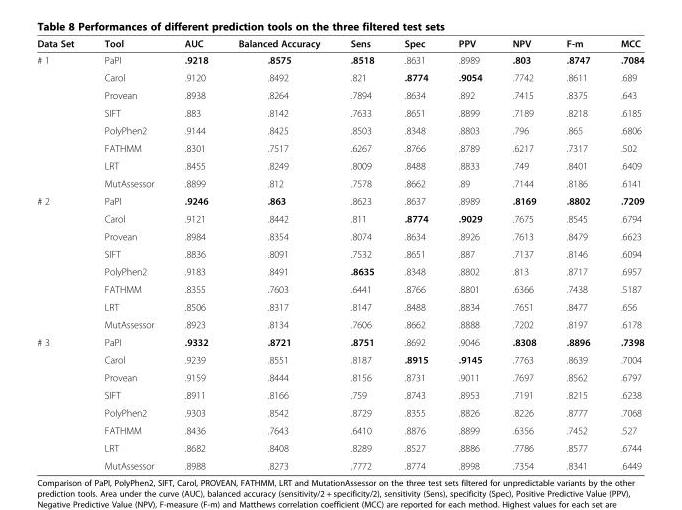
<table><thead><tr><td>Data Set</td><td>Tool</td><td>AUC</td><td>Balanced Accuracy</td><td>Sens</td><td>Spec</td><td>PPV</td><td>NPV</td><td>F-m</td><td>MCC</td></tr></thead><tbody><tr><td rowspan="8"># 1</td><td>PaPI</td><td>.9218</td><td>.8575</td><td>.8518</td><td>.8631</td><td>.8989</td><td>.803</td><td>.8747</td><td>.7084</td></tr><tr><td>Carol</td><td>.9120</td><td>.8492</td><td>.821</td><td>.8774</td><td>.9054</td><td>.7742</td><td>.8611</td><td>.689</td></tr><tr><td>Provean</td><td>.8938</td><td>.8264</td><td>.7894</td><td>.8634</td><td>.892</td><td>.7415</td><td>.8375</td><td>.643</td></tr><tr><td>SIFT</td><td>.883</td><td>.8142</td><td>.7633</td><td>.8651</td><td>.8899</td><td>.7189</td><td>.8218</td><td>.6185</td></tr><tr><td>PolyPhen2</td><td>.9144</td><td>.8425</td><td>.8503</td><td>.8348</td><td>.8803</td><td>.796</td><td>.865</td><td>.6806</td></tr><tr><td>FATHMM</td><td>.8301</td><td>.7517</td><td>.6267</td><td>.8766</td><td>.8789</td><td>.6217</td><td>.7317</td><td>.502</td></tr><tr><td>LRT</td><td>.8455</td><td>.8249</td><td>.8009</td><td>.8488</td><td>.8833</td><td>.749</td><td>.8401</td><td>.6409</td></tr><tr><td>MutAssessor</td><td>.8899</td><td>.812</td><td>.7578</td><td>.8662</td><td>.89</td><td>.7144</td><td>.8186</td><td>.6141</td></tr><tr><td rowspan="8"># 2</td><td>PaPI</td><td>.9246</td><td>.863</td><td>.8623</td><td>.8637</td><td>.8989</td><td>.8169</td><td>.8802</td><td>.7209</td></tr><tr><td>Carol</td><td>.9121</td><td>.8442</td><td>.811</td><td>.8774</td><td>.9029</td><td>.7675</td><td>.8545</td><td>.6794</td></tr><tr><td>Provean</td><td>.8984</td><td>.8354</td><td>.8074</td><td>.8634</td><td>.8926</td><td>.7613</td><td>.8479</td><td>.6623</td></tr><tr><td>SIFT</td><td>.8836</td><td>.8091</td><td>.7532</td><td>.8651</td><td>.887</td><td>.7137</td><td>.8146</td><td>.6094</td></tr><tr><td>PolyPhen2</td><td>.9183</td><td>.8491</td><td>.8635</td><td>.8348</td><td>.8802</td><td>.813</td><td>.8717</td><td>.6957</td></tr><tr><td>FATHMM</td><td>.8355</td><td>.7603</td><td>.6441</td><td>.8766</td><td>.8801</td><td>.6366</td><td>.7438</td><td>.5187</td></tr><tr><td>LRT</td><td>.8506</td><td>.8317</td><td>.8147</td><td>.8488</td><td>.8834</td><td>.7651</td><td>.8477</td><td>.656</td></tr><tr><td>MutAssessor</td><td>.8923</td><td>.8134</td><td>.7606</td><td>.8662</td><td>.8888</td><td>.7202</td><td>.8197</td><td>.6178</td></tr><tr><td rowspan="8"># 3</td><td>PaPI</td><td>.9332</td><td>.8721</td><td>.8751</td><td>.8692</td><td>.9046</td><td>.8308</td><td>.8896</td><td>.7398</td></tr><tr><td>Carol</td><td>.9239</td><td>.8551</td><td>.8187</td><td>.8915</td><td>.9145</td><td>.7763</td><td>.8639</td><td>.7004</td></tr><tr><td>Provean</td><td>.9159</td><td>.8444</td><td>.8156</td><td>.8731</td><td>.9011</td><td>.7697</td><td>.8562</td><td>.6797</td></tr><tr><td>SIFT</td><td>.8911</td><td>.8166</td><td>.759</td><td>.8743</td><td>.8953</td><td>.7191</td><td>.8215</td><td>.6238</td></tr><tr><td>PolyPhen2</td><td>.9303</td><td>.8542</td><td>.8729</td><td>.8355</td><td>.8826</td><td>.8226</td><td>.8777</td><td>.7068</td></tr><tr><td>FATHMM</td><td>.8436</td><td>.7643</td><td>.6410</td><td>.8876</td><td>.8899</td><td>.6356</td><td>.7452</td><td>.527</td></tr><tr><td>LRT</td><td>.8682</td><td>.8408</td><td>.8289</td><td>.8527</td><td>.8886</td><td>.7786</td><td>.8577</td><td>.6744</td></tr><tr><td>MutAssessor</td><td>.8988</td><td>.8273</td><td>.7772</td><td>.8774</td><td>.8998</td><td>.7354</td><td>.8341</td><td>.6449</td></tr></tbody></table>